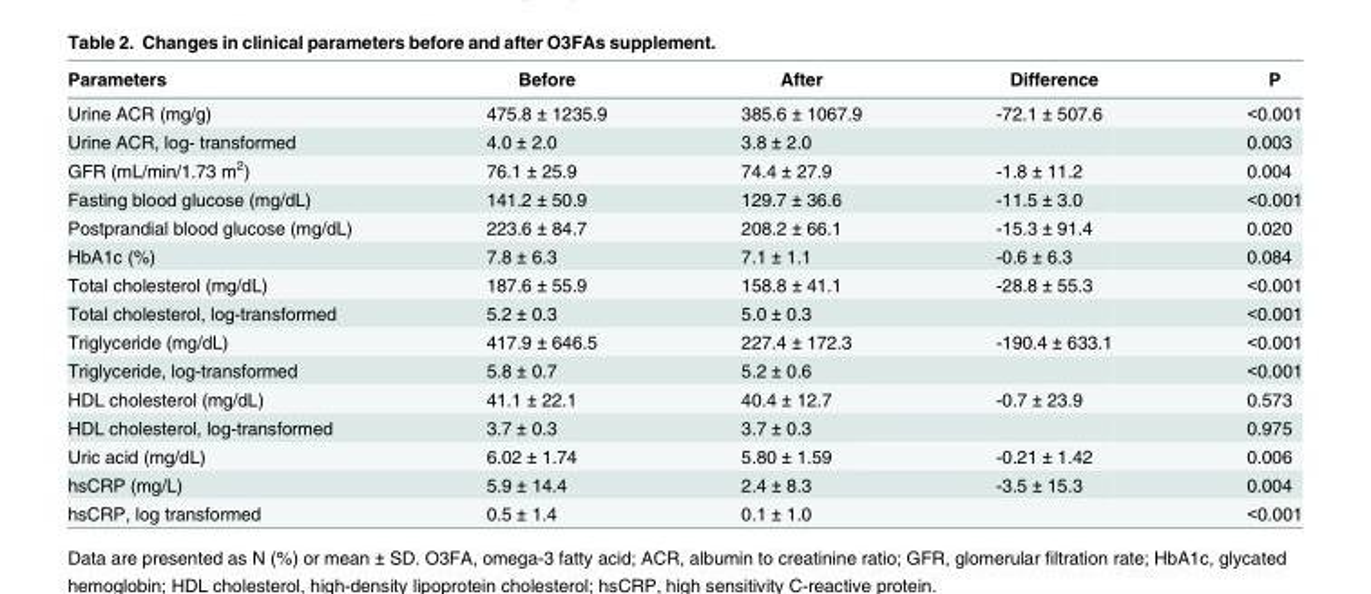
<table><thead><tr><td>Parameters</td><td>Before</td><td>After</td><td>Difference</td><td>P</td></tr></thead><tbody><tr><td>Urine ACR (mg/g)</td><td>475.8 ± 1235.9</td><td>385.6 ± 1067.9</td><td>-72.1 ± 507.6</td><td>&lt;0.001</td></tr><tr><td>Urine ACR, log- transformed</td><td>4.0 ± 2.0</td><td>3.8 ± 2.0</td><td></td><td>0.003</td></tr><tr><td>GFR (mL/min/1.73 m<sup>2</sup>)</td><td>76.1 ± 25.9</td><td>74.4 ± 27.9</td><td>-1.8 ± 11.2</td><td>0.004</td></tr><tr><td>Fasting blood glucose (mg/dL)</td><td>141.2 ± 50.9</td><td>129.7 ± 36.6</td><td>-11.5 ± 3.0</td><td>&lt;0.001</td></tr><tr><td>Postprandial blood glucose (mg/dL)</td><td>223.6 ± 84.7</td><td>208.2 ± 66.1</td><td>-15.3 ± 91.4</td><td>0.020</td></tr><tr><td>HbA1c (%)</td><td>7.8 ± 6.3</td><td>7.1 ± 1.1</td><td>-0.6 ± 6.3</td><td>0.084</td></tr><tr><td>Total cholesterol (mg/dL)</td><td>187.6 ± 55.9</td><td>158.8 ± 41.1</td><td>-28.8 ± 55.3</td><td>&lt;0.001</td></tr><tr><td>Total cholesterol, log-transformed</td><td>5.2 ± 0.3</td><td>5.0 ± 0.3</td><td></td><td>&lt;0.001</td></tr><tr><td>Triglyceride (mg/dL)</td><td>417.9 ± 646.5</td><td>227.4 ± 172.3</td><td>-190.4 ± 633.1</td><td>&lt;0.001</td></tr><tr><td>Triglyceride, log-transformed</td><td>5.8 ± 0.7</td><td>5.2 ± 0.6</td><td></td><td>&lt;0.001</td></tr><tr><td>HDL cholesterol (mg/dL)</td><td>41.1 ± 22.1</td><td>40.4 ± 12.7</td><td>-0.7 ± 23.9</td><td>0.573</td></tr><tr><td>HDL cholesterol, log-transformed</td><td>3.7 ± 0.3</td><td>3.7 ± 0.3</td><td></td><td>0.975</td></tr><tr><td>Uric acid (mg/dL)</td><td>6.02 ± 1.74</td><td>5.80 ± 1.59</td><td>-0.21 ± 1.42</td><td>0.006</td></tr><tr><td>hsCRP (mg/L)</td><td>5.9 ± 14.4</td><td>2.4 ± 8.3</td><td>-3.5 ± 15.3</td><td>0.004</td></tr><tr><td>hsCRP, log transformed</td><td>0.5 ± 1.4</td><td>0.1 ± 1.0</td><td></td><td>&lt;0.001</td></tr></tbody></table>